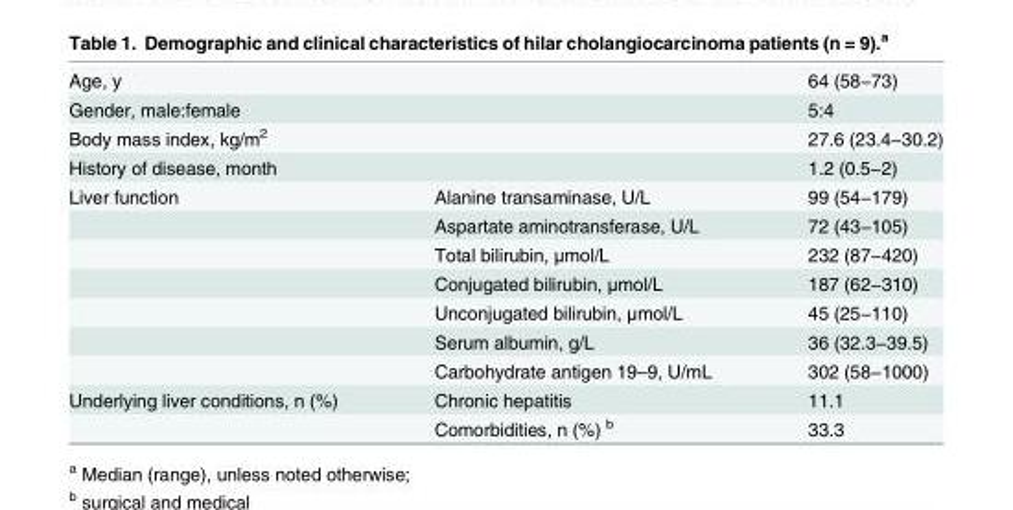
<table><tbody><tr><td>Age, y</td><td></td><td>64 (58−73)</td></tr><tr><td>Gender, male:female</td><td></td><td>5:4</td></tr><tr><td>Body mass index, kg/m<sup>2</sup></td><td></td><td>27.6 (23.4−30.2)</td></tr><tr><td>History of disease, month</td><td></td><td>1.2 (0.5−2)</td></tr><tr><td rowspan="7">Liver function</td><td>Alanine transaminase, U/L</td><td>99 (54−179)</td></tr><tr><td>Aspartate aminotransferase, U/L</td><td>72 (43−105)</td></tr><tr><td>Total bilirubin, μmol/L</td><td>232 (87−420)</td></tr><tr><td>Conjugated bilirubin, μmol/L</td><td>187 (62−310)</td></tr><tr><td>Unconjugated bilirubin, μmol/L</td><td>45 (25−110)</td></tr><tr><td>Serum albumin, g/L</td><td>36 (32.3−39.5)</td></tr><tr><td>Carbohydrate antigen 19–9, U/mL</td><td>302 (58−1000)</td></tr><tr><td rowspan="2">Underlying liver conditions, n (%)</td><td>Chronic hepatitis</td><td>11.1</td></tr><tr><td>Comorbidities, n (%) <sup>b</sup></td><td>33.3</td></tr></tbody></table>